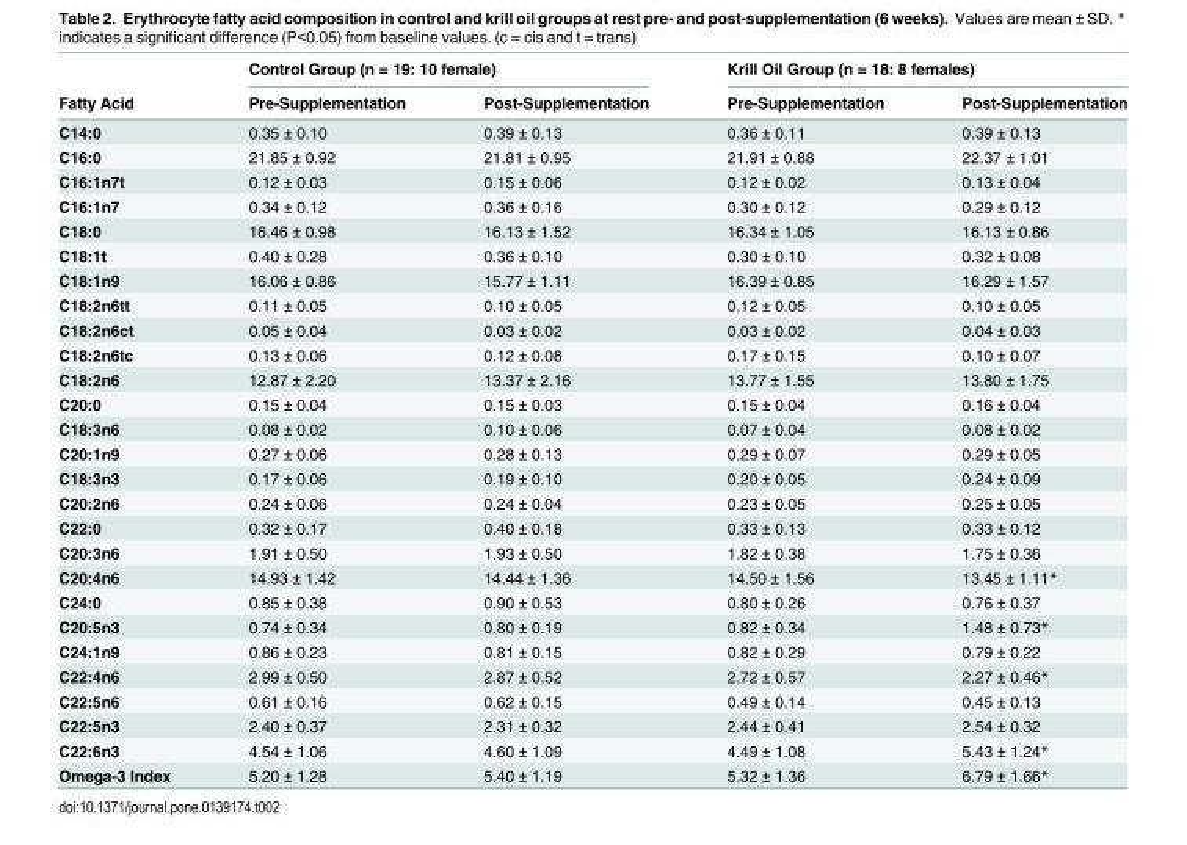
<table><thead><tr><td rowspan="2">Fatty Acid</td><td colspan="2">Control Group (n = 19: 10 female)</td><td colspan="2">Krill Oil Group (n = 18: 8 females)</td></tr><tr><td>Pre-Supplementation</td><td>Post-Supplementation</td><td>Pre-Supplementation</td><td>Post-Supplementation</td></tr></thead><tbody><tr><td>C14:0</td><td>0.35 ± 0.10</td><td>0.39 ± 0.13</td><td>0.36 ± 0.11</td><td>0.39 ± 0.13</td></tr><tr><td>C16:0</td><td>21.85 ± 0.92</td><td>21.81 ± 0.95</td><td>21.91 ± 0.88</td><td>22.37 ± 1.01</td></tr><tr><td>C16:1n7t</td><td>0.12 ± 0.03</td><td>0.15 ± 0.06</td><td>0.12 ± 0.02</td><td>0.13 ± 0.04</td></tr><tr><td>C16:1n7</td><td>0.34 ± 0.12</td><td>0.36 ± 0.16</td><td>0.30 ± 0.12</td><td>0.29 ± 0.12</td></tr><tr><td>C18:0</td><td>16.46 ± 0.98</td><td>16.13 ± 1.52</td><td>16.34 ± 1.05</td><td>16.13 ± 0.86</td></tr><tr><td>C18:1t</td><td>0.40 ± 0.28</td><td>0.36 ± 0.10</td><td>0.30 ± 0.10</td><td>0.32 ± 0.08</td></tr><tr><td>C18:1n9</td><td>16.06 ± 0.86</td><td>15.77 ± 1.11</td><td>16.39 ± 0.85</td><td>16.29 ± 1.57</td></tr><tr><td>C18:2n6tt</td><td>0.11 ± 0.05</td><td>0.10 ± 0.05</td><td>0.12 ± 0.05</td><td>0.10 ± 0.05</td></tr><tr><td>C18:2n6ct</td><td>0.05 ± 0.04</td><td>0.03 ± 0.02</td><td>0.03 ± 0.02</td><td>0.04 ± 0.03</td></tr><tr><td>C18:2n6tc</td><td>0.13 ± 0.06</td><td>0.12 ± 0.08</td><td>0.17 ± 0.15</td><td>0.10 ± 0.07</td></tr><tr><td>C18:2n6</td><td>12.87 ± 2.20</td><td>13.37 ± 2.16</td><td>13.77 ± 1.55</td><td>13.80 ± 1.75</td></tr><tr><td>C20:0</td><td>0.15 ± 0.04</td><td>0.15 ± 0.03</td><td>0.15 ± 0.04</td><td>0.16 ± 0.04</td></tr><tr><td>C18:3n6</td><td>0.08 ± 0.02</td><td>0.10 ± 0.06</td><td>0.07 ± 0.04</td><td>0.08 ± 0.02</td></tr><tr><td>C20:1n9</td><td>0.27 ± 0.06</td><td>0.28 ± 0.13</td><td>0.29 ± 0.07</td><td>0.29 ± 0.05</td></tr><tr><td>C18:3n3</td><td>0.17 ± 0.06</td><td>0.19 ± 0.10</td><td>0.20 ± 0.05</td><td>0.24 ± 0.09</td></tr><tr><td>C20:2n6</td><td>0.24 ± 0.06</td><td>0.24 ± 0.04</td><td>0.23 ± 0.05</td><td>0.25 ± 0.05</td></tr><tr><td>C22:0</td><td>0.32 ± 0.17</td><td>0.40 ± 0.18</td><td>0.33 ± 0.13</td><td>0.33 ± 0.12</td></tr><tr><td>C20:3n6</td><td>1.91 ± 0.50</td><td>1.93 ± 0.50</td><td>1.82 ± 0.38</td><td>1.75 ± 0.36</td></tr><tr><td>C20:4n6</td><td>14.93 ± 1.42</td><td>14.44 ± 1.36</td><td>14.50 ± 1.56</td><td>13.45 ± 1.11*</td></tr><tr><td>C24:0</td><td>0.85 ± 0.38</td><td>0.90 ± 0.53</td><td>0.80 ± 0.26</td><td>0.76 ± 0.37</td></tr><tr><td>C20:5n3</td><td>0.74 ± 0.34</td><td>0.80 ± 0.19</td><td>0.82 ± 0.34</td><td>1.48 ± 0.73*</td></tr><tr><td>C24:1n9</td><td>0.86 ± 0.23</td><td>0.81 ± 0.15</td><td>0.82 ± 0.29</td><td>0.79 ± 0.22</td></tr><tr><td>C22:4n6</td><td>2.99 ± 0.50</td><td>2.87 ± 0.52</td><td>2.72 ± 0.57</td><td>2.27 ± 0.46*</td></tr><tr><td>C22:5n6</td><td>0.61 ± 0.16</td><td>0.62 ± 0.15</td><td>0.49 ± 0.14</td><td>0.45 ± 0.13</td></tr><tr><td>C22:5n3</td><td>2.40 ± 0.37</td><td>2.31 ± 0.32</td><td>2.44 ± 0.41</td><td>2.54 ± 0.32</td></tr><tr><td>C22:6n3</td><td>4.54 ± 1.06</td><td>4.60 ± 1.09</td><td>4.49 ± 1.08</td><td>5.43 ± 1.24*</td></tr><tr><td>Omega-3 Index</td><td>5.20 ± 1.28</td><td>5.40 ± 1.19</td><td>5.32 ± 1.36</td><td>6.79 ± 1.66*</td></tr></tbody></table>